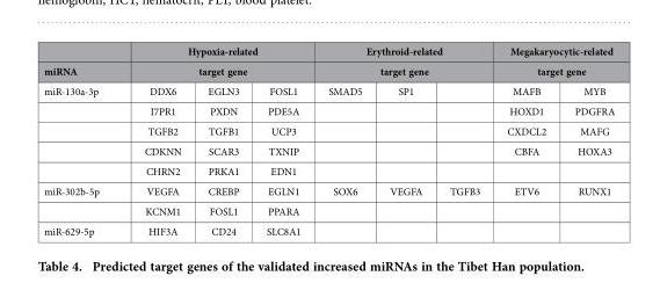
<table><thead><tr><td rowspan="3">miRNA miR-130a-3p</td><td rowspan="2" colspan="3">Hypoxia-related target gene</td><td rowspan="2" colspan="3">Erythroid-related target gene</td><td rowspan="2" colspan="2">Megakaryocytic-related target gene</td></tr><tr></tr><tr><td>DDX6</td><td>EGLN3</td><td>FOSL1</td><td>SMAD5</td><td>SP1</td><td></td><td>MAFB</td><td>MYB</td></tr></thead><tbody><tr><td></td><td>I7PR1</td><td>PXDN</td><td>PDE5A</td><td></td><td></td><td></td><td>HOXD1</td><td>PDGFRA</td></tr><tr><td></td><td>TGFB2</td><td>TGFB1</td><td>UCP3</td><td></td><td></td><td></td><td>CXDCL2</td><td>MAFG</td></tr><tr><td></td><td>CDKNN</td><td>SCAR3</td><td>TXNIP</td><td></td><td></td><td></td><td>CBFA</td><td>HOXA3</td></tr><tr><td></td><td>CHRN2</td><td>PRKA1</td><td>EDN1</td><td></td><td></td><td></td><td></td><td></td></tr><tr><td rowspan="2">miR-302b-5p</td><td>VEGFA</td><td>CREBP</td><td>EGLN1</td><td>SOX6</td><td>VEGFA</td><td>TGFB3</td><td>ETV6</td><td>RUNX1</td></tr><tr><td>KCNM1</td><td>FOSL1</td><td>PPARA</td><td></td><td></td><td></td><td></td><td></td></tr><tr><td>miR-629-5p</td><td>HIF3A</td><td>CD24</td><td>SLC8A1</td><td></td><td></td><td></td><td></td><td></td></tr></tbody></table>